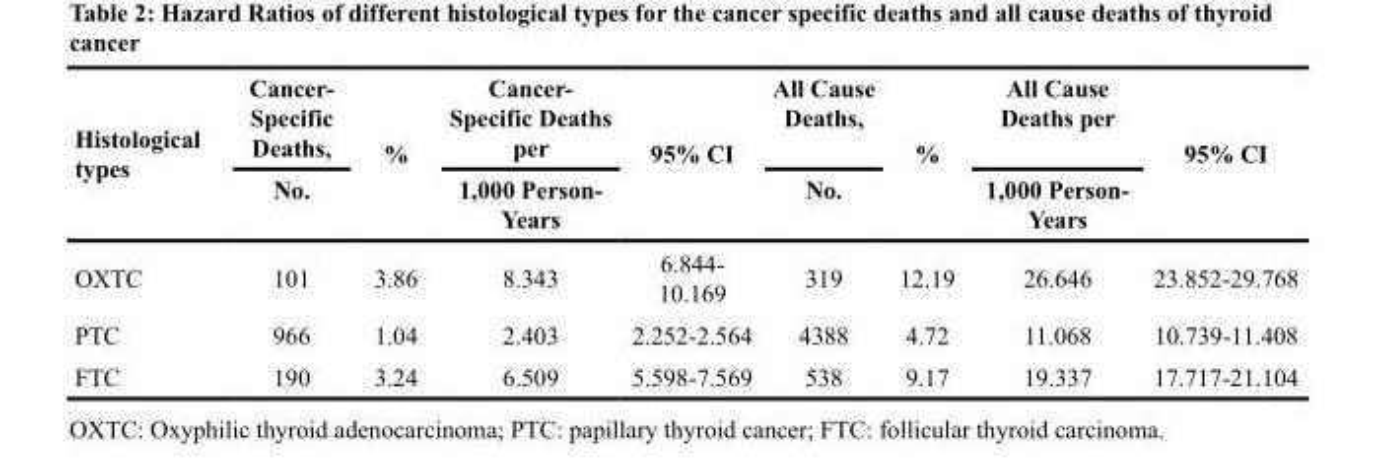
<table><thead><tr><td rowspan="2">Histological types</td><td rowspan="2">Cancer- Specific Deaths, No.</td><td rowspan="2">%</td><td rowspan="2">Cancer- Specific Deaths per 1,000 Person- Years</td><td rowspan="2">95% CI</td><td rowspan="2">All Cause Deaths, No.</td><td rowspan="2">%</td><td rowspan="2">All Cause Deaths per 1,000 Person- Years</td><td rowspan="2">95% CI</td></tr><tr></tr></thead><tbody><tr><td>OXTC</td><td>101</td><td>3.86</td><td>8.343</td><td>6.844- 10.169</td><td>319</td><td>12.19</td><td>26.646</td><td>23.852-29.768</td></tr><tr><td>PTC</td><td>966</td><td>1.04</td><td>2.403</td><td>2.252-2.564</td><td>4388</td><td>4.72</td><td>11.068</td><td>10.739-11.408</td></tr><tr><td>FTC</td><td>190</td><td>3.24</td><td>6.509</td><td>5.598-7.569</td><td>538</td><td>9.17</td><td>19.337</td><td>17.717-21.104</td></tr></tbody></table>